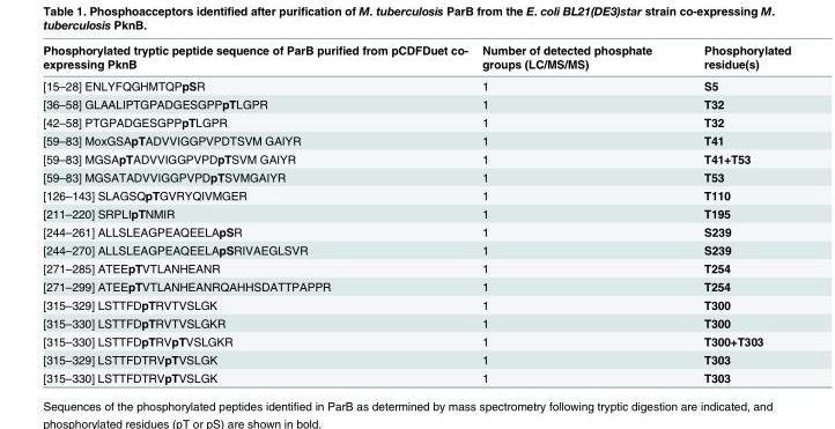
<table><thead><tr><td>Phosphorylated tryptic peptide sequence of ParB purified from pCDFDuet co- expressing PknB</td><td>Number of detected phosphate groups (LC/MS/MS)</td><td>Phosphorylated residue(s)</td></tr></thead><tbody><tr><td>[15–28] ENLYFQGHMTQPpSR</td><td>1</td><td>S5</td></tr><tr><td>[36–58] GLAALIPTGPADGESGPPpTLGPR</td><td>1</td><td>T32</td></tr><tr><td>[42–58] PTGPADGESGPPpTLGPR</td><td>1</td><td>T32</td></tr><tr><td>[59–83] MoxGSApTADVVIGGPVPDTSVM GAIYR</td><td>1</td><td>T41</td></tr><tr><td>[59–83] MGSApTADVVIGGPVPDpTSVM GAIYR</td><td>1</td><td>T41+T53</td></tr><tr><td>[59–83] MGSATADVVIGGPVPDpTSVMGAIYR</td><td>1</td><td>T53</td></tr><tr><td>[126–143] SLAGSQpTGVRYQIVMGER</td><td>1</td><td>T110</td></tr><tr><td>[211–220] SRPLIpTNMIR</td><td>1</td><td>T195</td></tr><tr><td>[244–261] ALLSLEAGPEAQEELApSR</td><td>1</td><td>S239</td></tr><tr><td>[244–270] ALLSLEAGPEAQEELApSRIVAEGLSVR</td><td>1</td><td>S239</td></tr><tr><td>[271–285] ATEEpTVTLANHEANR</td><td>1</td><td>T254</td></tr><tr><td>[271–299] ATEEpTVTLANHEANRQAHHSDATTPAPPR</td><td>1</td><td>T254</td></tr><tr><td>[315–329] LSTTFDpTRVTVSLGK</td><td>1</td><td>T300</td></tr><tr><td>[315–330] LSTTFDpTRVTVSLGKR</td><td>1</td><td>T300</td></tr><tr><td>[315–330] LSTTFDpTRVpTVSLGKR</td><td>1</td><td>T300+T303</td></tr><tr><td>[315–329] LSTTFDTRVpTVSLGK</td><td>1</td><td>T303</td></tr><tr><td>[315–330] LSTTFDTRVpTVSLGK</td><td>1</td><td>T303</td></tr></tbody></table>